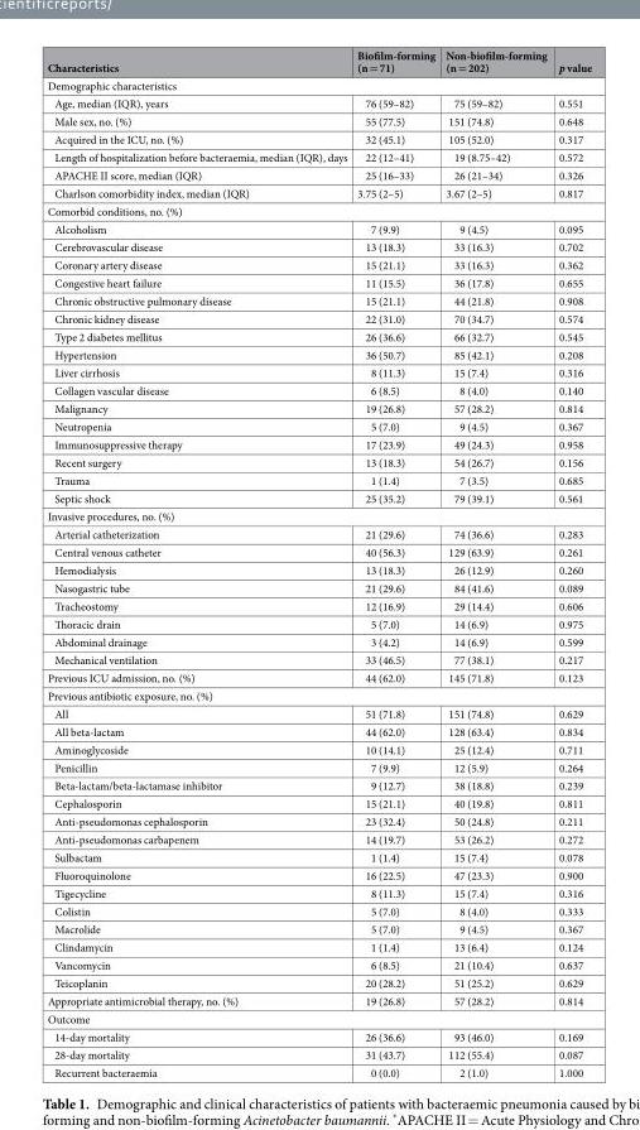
<table><thead><tr><td>Characteristics</td><td>Biofilm-forming (n = 71)</td><td>Non-biofilm-forming (n = 202)</td><td>p value</td></tr></thead><tbody><tr><td colspan="4">Demographic characteristics</td></tr><tr><td>Age, median (IQR), years</td><td>76 (59–82)</td><td>75 (59–82)</td><td>0.551</td></tr><tr><td>Male sex, no. (%)</td><td>55 (77.5)</td><td>151 (74.8)</td><td>0.648</td></tr><tr><td>Acquired in the ICU, no. (%)</td><td>32 (45.1)</td><td>105 (52.0)</td><td>0.317</td></tr><tr><td>Length of hospitalization before bacteraemia, median (IQR), days</td><td>22 (12–41)</td><td>19 (8.75–42)</td><td>0.572</td></tr><tr><td>APACHE II score, median (IQR)</td><td>25 (16–33)</td><td>26 (21–34)</td><td>0.326</td></tr><tr><td>Charlson comorbidity index, median (IQR)</td><td>3.75 (2–5)</td><td>3.67 (2–5)</td><td>0.817</td></tr><tr><td colspan="4">Comorbid conditions, no. (%)</td></tr><tr><td>Alcoholism</td><td>7 (9.9)</td><td>9 (4.5)</td><td>0.095</td></tr><tr><td>Cerebrovascular disease</td><td>13 (18.3)</td><td>33 (16.3)</td><td>0.702</td></tr><tr><td>Coronary artery disease</td><td>15 (21.1)</td><td>33 (16.3)</td><td>0.362</td></tr><tr><td>Congestive heart failure</td><td>11 (15.5)</td><td>36 (17.8)</td><td>0.655</td></tr><tr><td>Chronic obstructive pulmonary disease</td><td>15 (21.1)</td><td>44 (21.8)</td><td>0.908</td></tr><tr><td>Chronic kidney disease</td><td>22 (31.0)</td><td>70 (34.7)</td><td>0.574</td></tr><tr><td>Type 2 diabetes mellitus</td><td>26 (36.6)</td><td>66 (32.7)</td><td>0.545</td></tr><tr><td>Hypertension</td><td>36 (50.7)</td><td>85 (42.1)</td><td>0.208</td></tr><tr><td>Liver cirrhosis</td><td>8 (11.3)</td><td>15 (7.4)</td><td>0.316</td></tr><tr><td>Collagen vascular disease</td><td>6 (8.5)</td><td>8 (4.0)</td><td>0.140</td></tr><tr><td>Malignancy</td><td>19 (26.8)</td><td>57 (28.2)</td><td>0.814</td></tr><tr><td>Neutropenia</td><td>5 (7.0)</td><td>9 (4.5)</td><td>0.367</td></tr><tr><td>Immunosuppressive therapy</td><td>17 (23.9)</td><td>49 (24.3)</td><td>0.958</td></tr><tr><td>Recent surgery</td><td>13 (18.3)</td><td>54 (26.7)</td><td>0.156</td></tr><tr><td>Trauma</td><td>1 (1.4)</td><td>7 (3.5)</td><td>0.685</td></tr><tr><td>Septic shock</td><td>25 (35.2)</td><td>79 (39.1)</td><td>0.561</td></tr><tr><td colspan="4">Invasive procedures, no. (%)</td></tr><tr><td>Arterial catheterization</td><td>21 (29.6)</td><td>74 (36.6)</td><td>0.283</td></tr><tr><td>Central venous catheter</td><td>40 (56.3)</td><td>129 (63.9)</td><td>0.261</td></tr><tr><td>Hemodialysis</td><td>13 (18.3)</td><td>26 (12.9)</td><td>0.260</td></tr><tr><td>Nasogastric tube</td><td>21 (29.6)</td><td>84 (41.6)</td><td>0.089</td></tr><tr><td>Tracheostomy</td><td>12 (16.9)</td><td>29 (14.4)</td><td>0.606</td></tr><tr><td>Thoracic drain</td><td>5 (7.0)</td><td>14 (6.9)</td><td>0.975</td></tr><tr><td>Abdominal drainage</td><td>3 (4.2)</td><td>14 (6.9)</td><td>0.599</td></tr><tr><td>Mechanical ventilation</td><td>33 (46.5)</td><td>77 (38.1)</td><td>0.217</td></tr><tr><td>Previous ICU admission, no. (%)</td><td>44 (62.0)</td><td>145 (71.8)</td><td>0.123</td></tr><tr><td colspan="4">Previous antibiotic exposure, no. (%)</td></tr><tr><td>All</td><td>51 (71.8)</td><td>151 (74.8)</td><td>0.629</td></tr><tr><td>All beta-lactam</td><td>44 (62.0)</td><td>128 (63.4)</td><td>0.834</td></tr><tr><td>Aminoglycoside</td><td>10 (14.1)</td><td>25 (12.4)</td><td>0.711</td></tr><tr><td>Penicillin</td><td>7 (9.9)</td><td>12 (5.9)</td><td>0.264</td></tr><tr><td>Beta-lactam/beta-lactamase inhibitor</td><td>9 (12.7)</td><td>38 (18.8)</td><td>0.239</td></tr><tr><td>Cephalosporin</td><td>15 (21.1)</td><td>40 (19.8)</td><td>0.811</td></tr><tr><td>Anti-pseudomonas cephalosporin</td><td>23 (32.4)</td><td>50 (24.8)</td><td>0.211</td></tr><tr><td>Anti-pseudomonas carbapenem</td><td>14 (19.7)</td><td>53 (26.2)</td><td>0.272</td></tr><tr><td>Sulbactam</td><td>1 (1.4)</td><td>15 (7.4)</td><td>0.078</td></tr><tr><td>Fluoroquinolone</td><td>16 (22.5)</td><td>47 (23.3)</td><td>0.900</td></tr><tr><td>Tigecycline</td><td>8 (11.3)</td><td>15 (7.4)</td><td>0.316</td></tr><tr><td>Colistin</td><td>5 (7.0)</td><td>8 (4.0)</td><td>0.333</td></tr><tr><td>Macrolide</td><td>5 (7.0)</td><td>9 (4.5)</td><td>0.367</td></tr><tr><td>Clindamycin</td><td>1 (1.4)</td><td>13 (6.4)</td><td>0.124</td></tr><tr><td>Vancomycin</td><td>6 (8.5)</td><td>21 (10.4)</td><td>0.637</td></tr><tr><td>Teicoplanin</td><td>20 (28.2)</td><td>51 (25.2)</td><td>0.629</td></tr><tr><td>Appropriate antimicrobial therapy, no. (%)</td><td>19 (26.8)</td><td>57 (28.2)</td><td>0.814</td></tr><tr><td colspan="4">Outcome</td></tr><tr><td>14-day mortality</td><td>26 (36.6)</td><td>93 (46.0)</td><td>0.169</td></tr><tr><td>28-day mortality</td><td>31 (43.7)</td><td>112 (55.4)</td><td>0.087</td></tr><tr><td>Recurrent bacteraemia</td><td>0 (0.0)</td><td>2 (1.0)</td><td>1.000</td></tr></tbody></table>